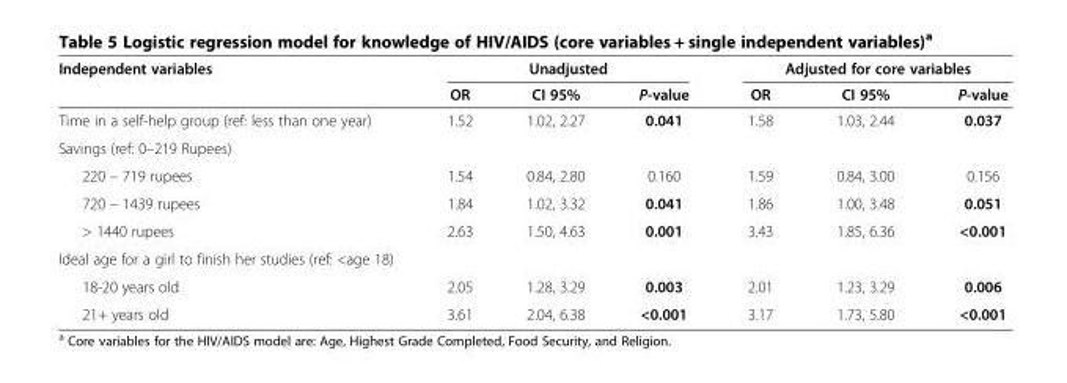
<table><thead><tr><td rowspan="2">Independent variables</td><td colspan="3">Unadjusted</td><td colspan="3">Adjusted for core variables</td></tr><tr><td>OR</td><td>CI 95%</td><td>P-value</td><td>OR</td><td>CI 95%</td><td>P-value</td></tr></thead><tbody><tr><td>Time in a self-help group (ref: less than one year)</td><td>1.52</td><td>1.02, 2.27</td><td>0.041</td><td>1.58</td><td>1.03, 2.44</td><td>0.037</td></tr><tr><td colspan="7">Savings (ref: 0–219 Rupees)</td></tr><tr><td>220 – 719 rupees</td><td>1.54</td><td>0.84, 2.80</td><td>0.160</td><td>1.59</td><td>0.84, 3.00</td><td>0.156</td></tr><tr><td>720 – 1439 rupees</td><td>1.84</td><td>1.02, 3.32</td><td>0.041</td><td>1.86</td><td>1.00, 3.48</td><td>0.051</td></tr><tr><td>&gt; 1440 rupees</td><td>2.63</td><td>1.50, 4.63</td><td>0.001</td><td>3.43</td><td>1.85, 6.36</td><td>&lt;0.001</td></tr><tr><td colspan="7">Ideal age for a girl to finish her studies (ref: &lt;age 18)</td></tr><tr><td>18-20 years old</td><td>2.05</td><td>1.28, 3.29</td><td>0.003</td><td>2.01</td><td>1.23, 3.29</td><td>0.006</td></tr><tr><td>21+ years old</td><td>3.61</td><td>2.04, 6.38</td><td>&lt;0.001</td><td>3.17</td><td>1.73, 5.80</td><td>&lt;0.001</td></tr></tbody></table>